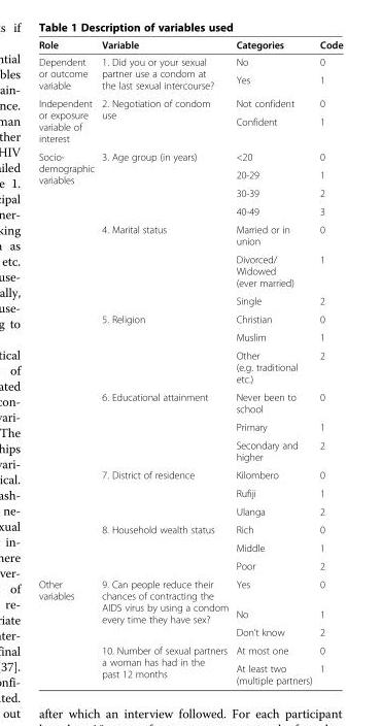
<table><thead><tr><td>Role</td><td>Variable</td><td>Categories</td><td>Code</td></tr></thead><tbody><tr><td rowspan="2">Dependent or outcome variable</td><td rowspan="2">1. Did you or your sexual partner use a condom at the last sexual intercourse?</td><td>No</td><td>0</td></tr><tr><td>Yes</td><td>1</td></tr><tr><td rowspan="2">Independent or exposure variable of interest</td><td rowspan="2">2. Negotiation of condom use</td><td>Not confident</td><td>0</td></tr><tr><td>Confident</td><td>1</td></tr><tr><td rowspan="19">Socio- demographic variables</td><td rowspan="4">3. Age group (in years)</td><td>&lt;20</td><td>0</td></tr><tr><td>20-29</td><td>1</td></tr><tr><td>30-39</td><td>2</td></tr><tr><td>40-49</td><td>3</td></tr><tr><td rowspan="3">4. Marital status</td><td>Married or in union</td><td>0</td></tr><tr><td>Divorced/ Widowed (ever married)</td><td>1</td></tr><tr><td>Single</td><td>2</td></tr><tr><td rowspan="3">5. Religion</td><td>Christian</td><td>0</td></tr><tr><td>Muslim</td><td>1</td></tr><tr><td>Other (e.g. traditional etc.)</td><td>2</td></tr><tr><td rowspan="3">6. Educational attainment</td><td>Never been to school</td><td>0</td></tr><tr><td>Primary</td><td>1</td></tr><tr><td>Secondary and higher</td><td>2</td></tr><tr><td rowspan="3">7. District of residence</td><td>Kilombero</td><td>0</td></tr><tr><td>Rufiji</td><td>1</td></tr><tr><td>Ulanga</td><td>2</td></tr><tr><td rowspan="3">8. Household wealth status</td><td>Rich</td><td>0</td></tr><tr><td>Middle</td><td>1</td></tr><tr><td>Poor</td><td>2</td></tr><tr><td rowspan="5">Other variables</td><td rowspan="3">9. Can people reduce their chances of contracting the AIDS virus by using a condom every time they have sex?</td><td>Yes</td><td>0</td></tr><tr><td>No</td><td>1</td></tr><tr><td>Don’t know</td><td>2</td></tr><tr><td rowspan="2">10. Number of sexual partners a woman has had in the past 12 months</td><td>At most one</td><td>0</td></tr><tr><td>At least two (multiple partners)</td><td>1</td></tr></tbody></table>